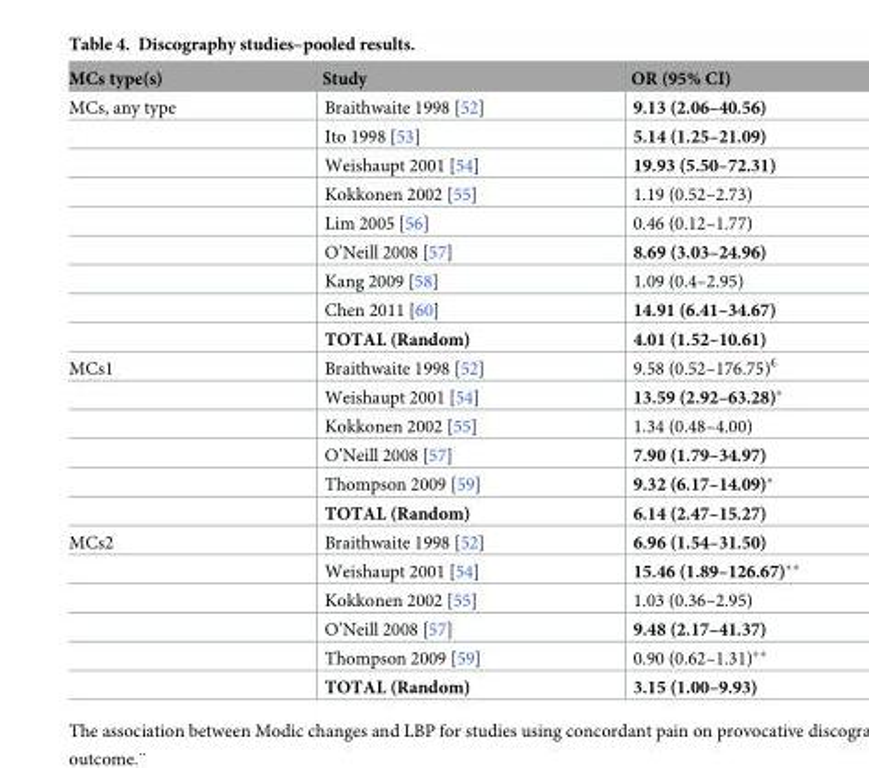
<table><thead><tr><td>MCs type(s)</td><td>Study</td><td>OR (95% CI)</td></tr></thead><tbody><tr><td rowspan="9">MCs, any type</td><td>Braithwaite 1998 [52]</td><td>9.13 (2.06–40.56)</td></tr><tr><td>Ito 1998 [53]</td><td>5.14 (1.25–21.09)</td></tr><tr><td>Weishaupt 2001 [54]</td><td>19.93 (5.50–72.31)</td></tr><tr><td>Kokkonen 2002 [55]</td><td>1.19 (0.52–2.73)</td></tr><tr><td>Lim 2005 [56]</td><td>0.46 (0.12–1.77)</td></tr><tr><td>O’Neill 2008 [57]</td><td>8.69 (3.03–24.96)</td></tr><tr><td>Kang 2009 [58]</td><td>1.09 (0.4–2.95)</td></tr><tr><td>Chen 2011 [60]</td><td>14.91 (6.41–34.67)</td></tr><tr><td>TOTAL (Random)</td><td>4.01 (1.52–10.61)</td></tr><tr><td rowspan="6">MCs1</td><td>Braithwaite 1998 [52]</td><td>9.58 (0.52–176.75)<sup>£</sup></td></tr><tr><td>Weishaupt 2001 [54]</td><td>13.59 (2.92–63.28)*</td></tr><tr><td>Kokkonen 2002 [55]</td><td>1.34 (0.48–4.00)</td></tr><tr><td>O’Neill 2008 [57]</td><td>7.90 (1.79–34.97)</td></tr><tr><td>Thompson 2009 [59]</td><td>9.32 (6.17–14.09)*</td></tr><tr><td>TOTAL (Random)</td><td>6.14 (2.47–15.27)</td></tr><tr><td rowspan="6">MCs2</td><td>Braithwaite 1998 [52]</td><td>6.96 (1.54–31.50)</td></tr><tr><td>Weishaupt 2001 [54]</td><td>15.46 (1.89–126.67)**</td></tr><tr><td>Kokkonen 2002 [55]</td><td>1.03 (0.36–2.95)</td></tr><tr><td>O’Neill 2008 [57]</td><td>9.48 (2.17–41.37)</td></tr><tr><td>Thompson 2009 [59]</td><td>0.90 (0.62–1.31)**</td></tr><tr><td>TOTAL (Random)</td><td>3.15 (1.00–9.93)</td></tr></tbody></table>